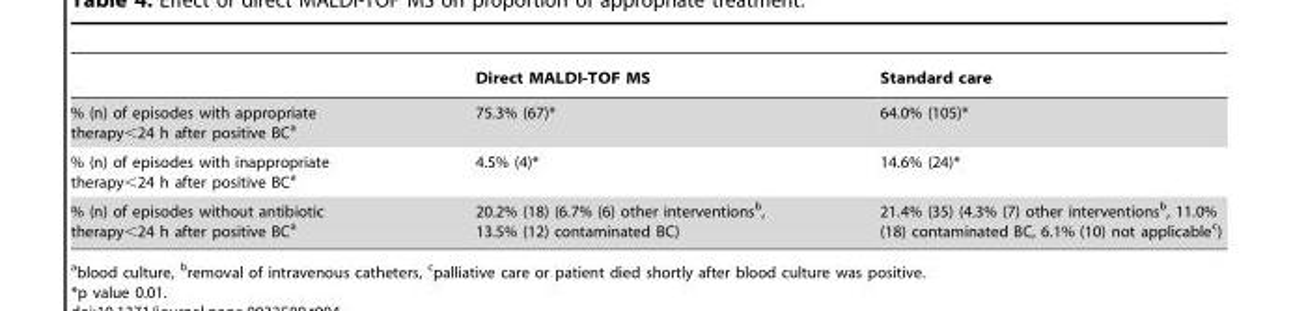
<table><thead><tr><td></td><td>Direct MALDI-TOF MS</td><td>Standard care</td></tr></thead><tbody><tr><td>% (n) of episodes with appropriate therapy&lt;24 h after positive BC<sup>a</sup></td><td>75.3% (67)*</td><td>64.0% (105)*</td></tr><tr><td>% (n) of episodes with inappropriate therapy&lt;24 h after positive BC<sup>a</sup></td><td>4.5% (4)*</td><td>14.6% (24)*</td></tr><tr><td>% (n) of episodes without antibiotic therapy&lt;24 h after positive BC<sup>a</sup></td><td>20.2% (18) (6.7% (6) other interventions<sup>b</sup>, 13.5% (12) contaminated BC)</td><td>21.4% (35) (4.3% (7) other interventions<sup>b</sup>, 11.0% (18) contaminated BC, 6.1% (10) not applicable<sup>c</sup>)</td></tr></tbody></table>